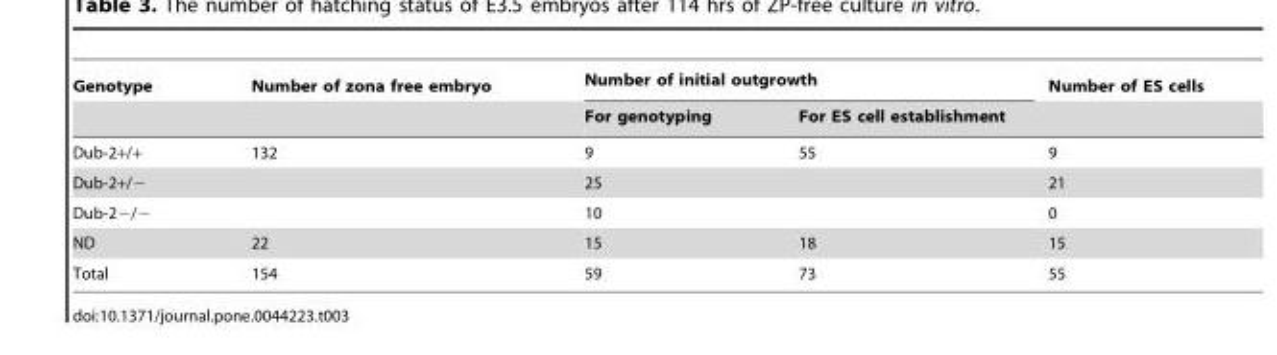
<table><thead><tr><td rowspan="2">Genotype</td><td rowspan="2">Number of zona free embryo</td><td colspan="2">Number of initial outgrowth</td><td rowspan="2">Number of ES cells</td></tr><tr><td>For genotyping</td><td>For ES cell establishment</td></tr></thead><tbody><tr><td>Dub-2+/+</td><td>132</td><td>9</td><td>55</td><td>9</td></tr><tr><td>Dub-2+/−</td><td></td><td>25</td><td></td><td>21</td></tr><tr><td>Dub-2−/−</td><td></td><td>10</td><td></td><td>0</td></tr><tr><td>ND</td><td>22</td><td>15</td><td>18</td><td>15</td></tr><tr><td>Total</td><td>154</td><td>59</td><td>73</td><td>55</td></tr></tbody></table>